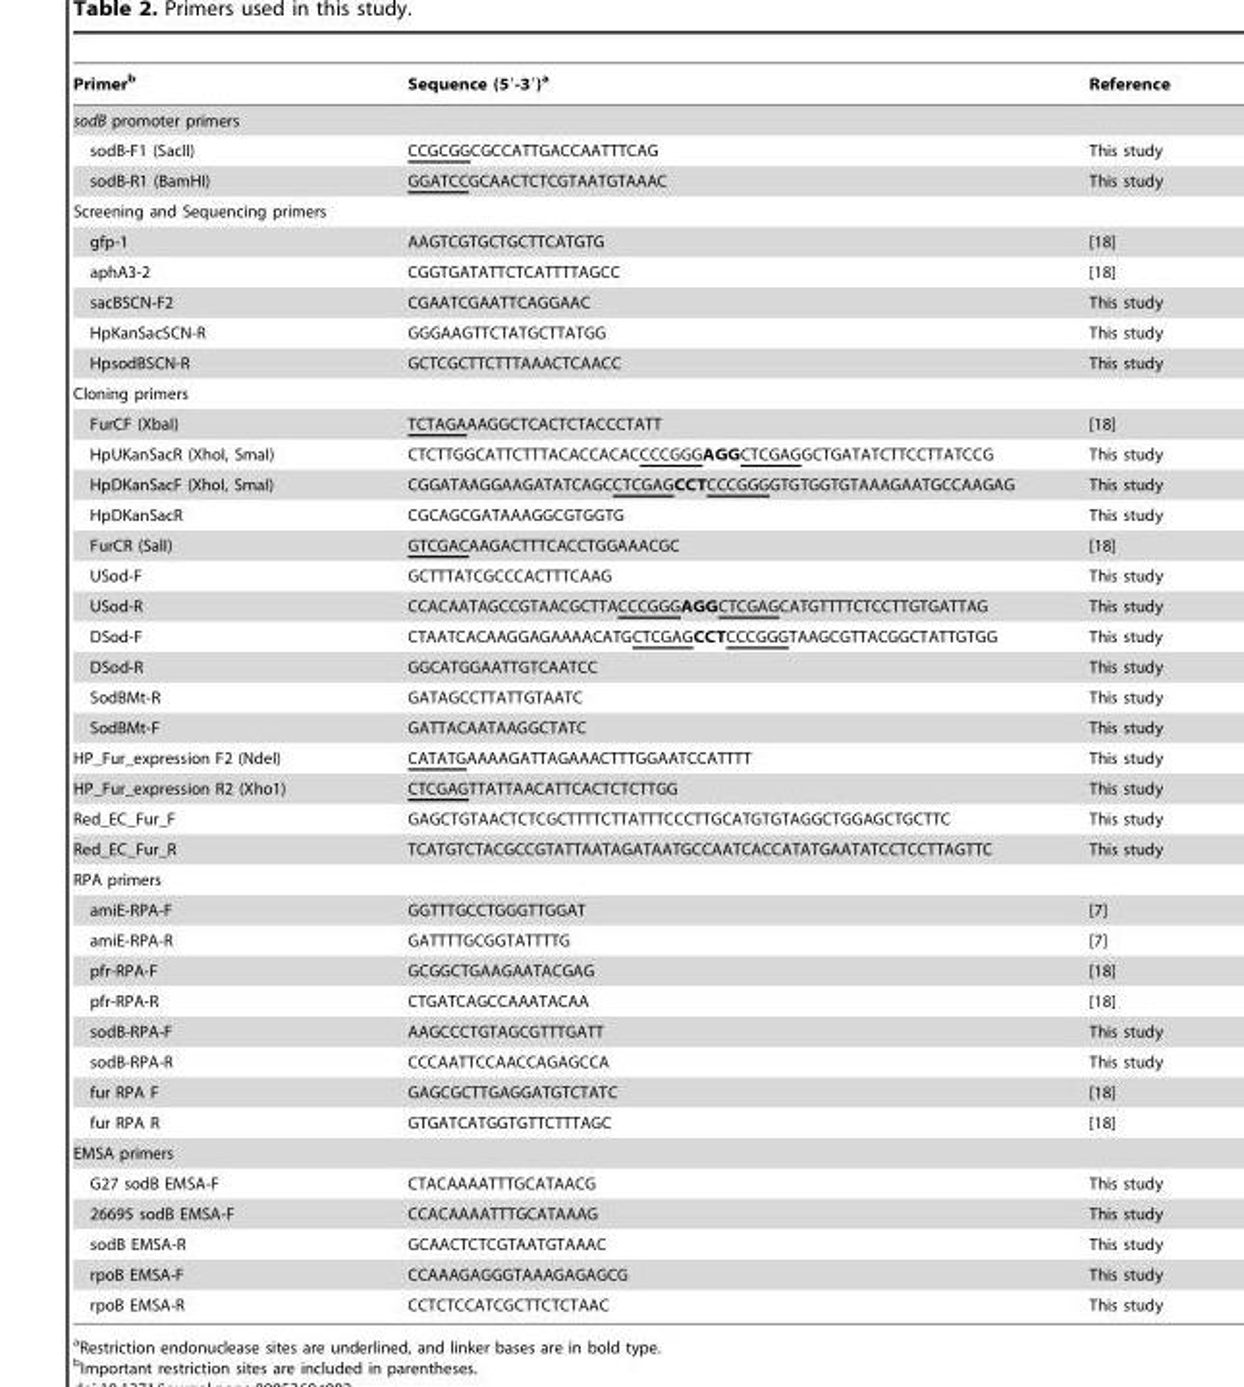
<table><thead><tr><td>Primer<sup>b</sup></td><td>Sequence (5′-3′)<sup>a</sup></td><td>Reference</td></tr></thead><tbody><tr><td colspan="3">sodB promoter primers</td></tr><tr><td>sodB-F1 (SacII)</td><td>CCGCGGCGCCATTGACCAATTTCAG</td><td>This study</td></tr><tr><td>sodB-R1 (BamHI)</td><td>GGATCCGCAACTCTCGTAATGTAAAC</td><td>This study</td></tr><tr><td colspan="3">Screening and Sequencing primers</td></tr><tr><td>gfp-1</td><td>AAGTCGTGCTGCTTCATGTG</td><td>[18]</td></tr><tr><td>aphA3-2</td><td>CGGTGATATTCTCATTTTAGCC</td><td>[18]</td></tr><tr><td>sacBSCN-F2</td><td>CGAATCGAATTCAGGAAC</td><td>This study</td></tr><tr><td>HpKanSacSCN-R</td><td>GGGAAGTTCTATGCTTATGG</td><td>This study</td></tr><tr><td>HpsodBSCN-R</td><td>GCTCGCTTCTTTAAACTCAACC</td><td>This study</td></tr><tr><td colspan="3">Cloning primers</td></tr><tr><td>FurCF (XbaI)</td><td>TCTAGAAAGGCTCACTCTACCCTATT</td><td>[18]</td></tr><tr><td>HpUKanSacR (XhoI, SmaI)</td><td>CTCTTGGCATTCTTTACACCACACCCCGGGAGGCTCGAGGCTGATATCTTCCTTATCCG</td><td>This study</td></tr><tr><td>HpDKanSacF (XhoI, SmaI)</td><td>CGGATAAGGAAGATATCAGCCTCGAGCCTCCCGGGGTGTGGTGTAAAGAATGCCAAGAG</td><td>This study</td></tr><tr><td>HpDKanSacR</td><td>CGCAGCGATAAAGGCGTGGTG</td><td>This study</td></tr><tr><td>FurCR (SalI)</td><td>GTCGACAAGACTTTCACCTGGAAACGC</td><td>[18]</td></tr><tr><td>USod-F</td><td>GCTTTATCGCCCACTTTCAAG</td><td>This study</td></tr><tr><td>USod-R</td><td>CCACAATAGCCGTAACGCTTACCCGGGAGGCTCGAGCATGTTTTCTCCTTGTGATTAG</td><td>This study</td></tr><tr><td>DSod-F</td><td>CTAATCACAAGGAGAAAACATGCTCGAGCCTCCCGGGTAAGCGTTACGGCTATTGTGG</td><td>This study</td></tr><tr><td>DSod-R</td><td>GGCATGGAATTGTCAATCC</td><td>This study</td></tr><tr><td>SodBMt-R</td><td>GATAGCCTTATTGTAATC</td><td>This study</td></tr><tr><td>SodBMt-F</td><td>GATTACAATAAGGCTATC</td><td>This study</td></tr><tr><td>HP_Fur_expression F2 (NdeI)</td><td>CATATGAAAAGATTAGAAACTTTGGAATCCATTTT</td><td>This study</td></tr><tr><td>HP_Fur_expression R2 (Xho1)</td><td>CTCGAGTTATTAACATTCACTCTCTTGG</td><td>This study</td></tr><tr><td>Red_EC_Fur_F</td><td>GAGCTGTAACTCTCGCTTTTCTTATTTCCCTTGCATGTGTAGGCTGGAGCTGCTTC</td><td>This study</td></tr><tr><td>Red_EC_Fur_R</td><td>TCATGTCTACGCCGTATTAATAGATAATGCCAATCACCATATGAATATCCTCCTTAGTTC</td><td>This study</td></tr><tr><td colspan="3">RPA primers</td></tr><tr><td>amiE-RPA-F</td><td>GGTTTGCCTGGGTTGGAT</td><td>[7]</td></tr><tr><td>amiE-RPA-R</td><td>GATTTTGCGGTATTTTG</td><td>[7]</td></tr><tr><td>pfr-RPA-F</td><td>GCGGCTGAAGAATACGAG</td><td>[18]</td></tr><tr><td>pfr-RPA-R</td><td>CTGATCAGCCAAATACAA</td><td>[18]</td></tr><tr><td>sodB-RPA-F</td><td>AAGCCCTGTAGCGTTTGATT</td><td>This study</td></tr><tr><td>sodB-RPA-R</td><td>CCCAATTCCAACCAGAGCCA</td><td>This study</td></tr><tr><td>fur RPA F</td><td>GAGCGCTTGAGGATGTCTATC</td><td>[18]</td></tr><tr><td>fur RPA R</td><td>GTGATCATGGTGTTCTTTAGC</td><td>[18]</td></tr><tr><td colspan="3">EMSA primers</td></tr><tr><td>G27 sodB EMSA-F</td><td>CTACAAAATTTGCATAACG</td><td>This study</td></tr><tr><td>26695 sodB EMSA-F</td><td>CCACAAAATTTGCATAAAG</td><td>This study</td></tr><tr><td>sodB EMSA-R</td><td>GCAACTCTCGTAATGTAAAC</td><td>This study</td></tr><tr><td>rpoB EMSA-F</td><td>CCAAAGAGGGTAAAGAGAGCG</td><td>This study</td></tr><tr><td>rpoB EMSA-R</td><td>CCTCTCCATCGCTTCTCTAAC</td><td>This study</td></tr></tbody></table>